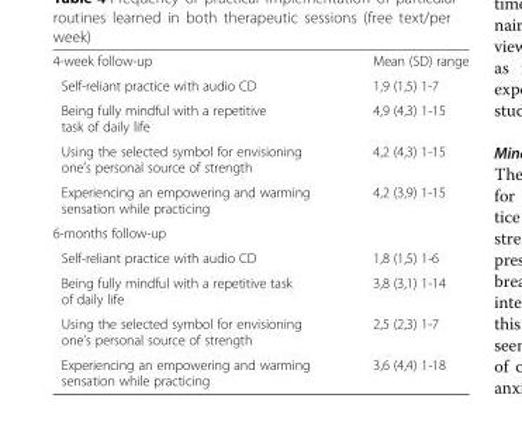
<table><tbody><tr><td>4-week follow-up</td><td>Mean (SD) range</td></tr><tr><td>Self-reliant practice with audio CD</td><td>1,9 (1,5) 1-7</td></tr><tr><td>Being fully mindful with a repetitive task of daily life</td><td>4,9 (4,3) 1-15</td></tr><tr><td>Using the selected symbol for envisioning one’s personal source of strength</td><td>4,2 (4,3) 1-15</td></tr><tr><td>Experiencing an empowering and warming sensation while practicing</td><td>4,2 (3,9) 1-15</td></tr><tr><td colspan="2">6-months follow-up</td></tr><tr><td>Self-reliant practice with audio CD</td><td>1,8 (1,5) 1-6</td></tr><tr><td>Being fully mindful with a repetitive task of daily life</td><td>3,8 (3,1) 1-14</td></tr><tr><td>Using the selected symbol for envisioning one’s personal source of strength</td><td>2,5 (2,3) 1-7</td></tr><tr><td>Experiencing an empowering and warming sensation while practicing</td><td>3,6 (4,4) 1-18</td></tr></tbody></table>